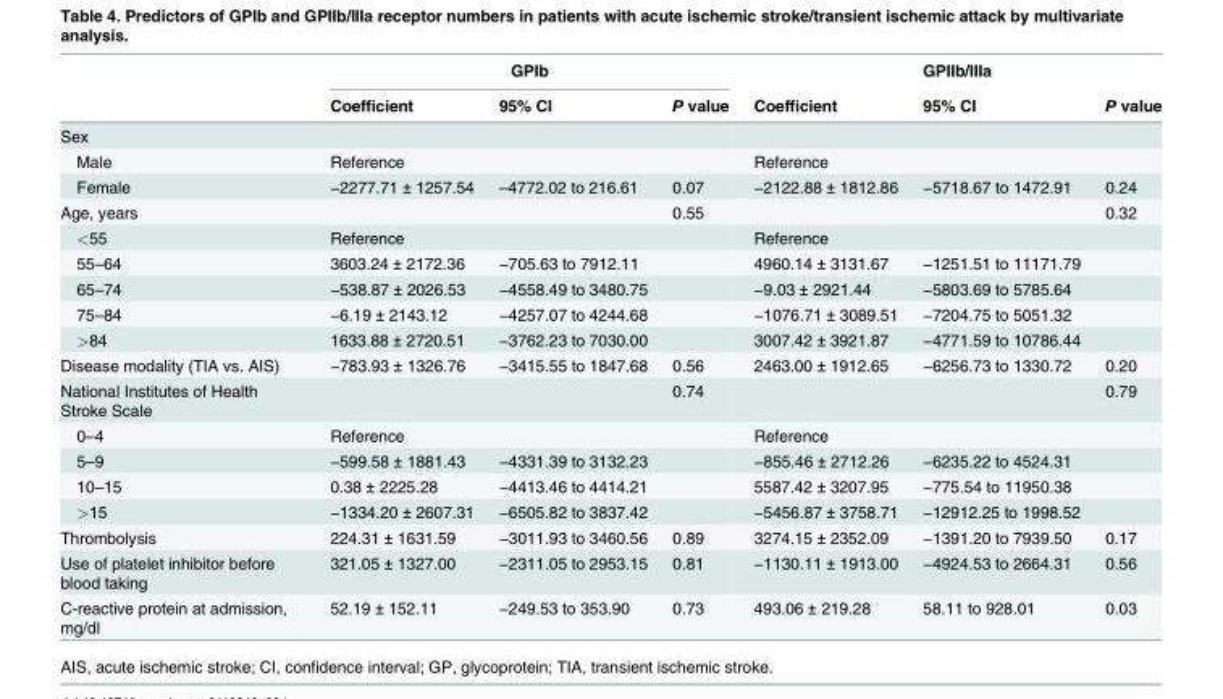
<table><thead><tr><td rowspan="2"></td><td colspan="3">GPIb</td><td rowspan="2">Coefficient</td><td rowspan="2">GPIIb/IIIa 95% CI</td><td rowspan="2">P value</td></tr><tr><td>Coefficient</td><td>95% CI</td><td>P value</td></tr></thead><tbody><tr><td colspan="7">Sex</td></tr><tr><td>Male</td><td>Reference</td><td></td><td></td><td>Reference</td><td></td><td></td></tr><tr><td>Female</td><td>−2277.71 ± 1257.54</td><td>–4772.02 to 216.61</td><td>0.07</td><td>−2122.88 ± 1812.86</td><td>−5718.67 to 1472.91</td><td>0.24</td></tr><tr><td>Age, years</td><td></td><td></td><td>0.55</td><td></td><td></td><td>0.32</td></tr><tr><td>&lt;55</td><td>Reference</td><td></td><td></td><td>Reference</td><td></td><td></td></tr><tr><td>55–64</td><td>3603.24 ± 2172.36</td><td>−705.63 to 7912.11</td><td></td><td>4960.14 ± 3131.67</td><td>−1251.51 to 11171.79</td><td></td></tr><tr><td>65–74</td><td>−538.87 ± 2026.53</td><td>−4558.49 to 3480.75</td><td></td><td>−9.03 ± 2921.44</td><td>−5803.69 to 5785.64</td><td></td></tr><tr><td>75–84</td><td>−6.19 ± 2143.12</td><td>−4257.07 to 4244.68</td><td></td><td>−1076.71 ± 3089.51</td><td>−7204.75 to 5051.32</td><td></td></tr><tr><td>&gt;84</td><td>1633.88 ± 2720.51</td><td>−3762.23 to 7030.00</td><td></td><td>3007.42 ± 3921.87</td><td>−4771.59 to 10786.44</td><td></td></tr><tr><td>Disease modality (TIA vs. AIS)</td><td>−783.93 ± 1326.76</td><td>−3415.55 to 1847.68</td><td>0.56</td><td>2463.00 ± 1912.65</td><td>−6256.73 to 1330.72</td><td>0.20</td></tr><tr><td>National Institutes of Health Stroke Scale</td><td></td><td></td><td>0.74</td><td></td><td></td><td>0.79</td></tr><tr><td>0–4</td><td>Reference</td><td></td><td></td><td>Reference</td><td></td><td></td></tr><tr><td>5–9</td><td>−599.58 ± 1881.43</td><td>−4331.39 to 3132.23</td><td></td><td>−855.46 ± 2712.26</td><td>−6235.22 to 4524.31</td><td></td></tr><tr><td>10–15</td><td>0.38 ± 2225.28</td><td>−4413.46 to 4414.21</td><td></td><td>5587.42 ± 3207.95</td><td>−775.54 to 11950.38</td><td></td></tr><tr><td>&gt;15</td><td>−1334.20 ± 2607.31</td><td>−6505.82 to 3837.42</td><td></td><td>−5456.87 ± 3758.71</td><td>−12912.25 to 1998.52</td><td></td></tr><tr><td>Thrombolysis</td><td>224.31 ± 1631.59</td><td>−3011.93 to 3460.56</td><td>0.89</td><td>3274.15 ± 2352.09</td><td>−1391.20 to 7939.50</td><td>0.17</td></tr><tr><td>Use of platelet inhibitor before blood taking</td><td>321.05 ± 1327.00</td><td>−2311.05 to 2953.15</td><td>0.81</td><td>−1130.11 ± 1913.00</td><td>−4924.53 to 2664.31</td><td>0.56</td></tr><tr><td>C-reactive protein at admission, mg/dl</td><td>52.19 ± 152.11</td><td>−249.53 to 353.90</td><td>0.73</td><td>493.06 ± 219.28</td><td>58.11 to 928.01</td><td>0.03</td></tr></tbody></table>